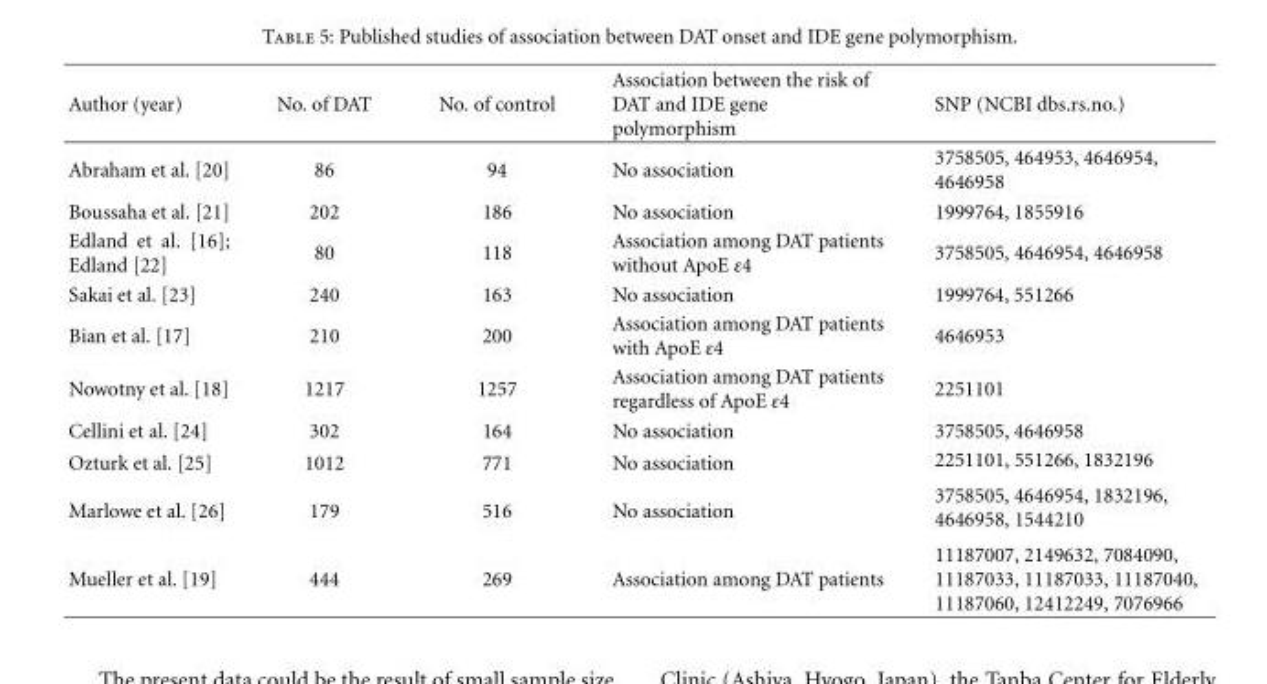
<table><thead><tr><td>Author (year)</td><td>No. of DAT</td><td>No. of control</td><td>Association between the risk of DAT and IDE gene polymorphism</td><td>SNP (NCBI dbs.rs.no.)</td></tr></thead><tbody><tr><td>Abraham et al. [20]</td><td>86</td><td>94</td><td>No association</td><td>3758505, 464953, 4646954, 4646958</td></tr><tr><td>Boussaha et al. [21]</td><td>202</td><td>186</td><td>No association</td><td>1999764, 1855916</td></tr><tr><td>Edland et al. [16]; Edland [22]</td><td>80</td><td>118</td><td>Association among DAT patients without ApoE ε4</td><td>3758505, 4646954, 4646958</td></tr><tr><td>Sakai et al. [23]</td><td>240</td><td>163</td><td>No association</td><td>1999764, 551266</td></tr><tr><td>Bian et al. [17]</td><td>210</td><td>200</td><td>Association among DAT patients with ApoE ε4</td><td>4646953</td></tr><tr><td>Nowotny et al. [18]</td><td>1217</td><td>1257</td><td>Association among DAT patients regardless of ApoE ε4</td><td>2251101</td></tr><tr><td>Cellini et al. [24]</td><td>302</td><td>164</td><td>No association</td><td>3758505, 4646958</td></tr><tr><td>Ozturk et al. [25]</td><td>1012</td><td>771</td><td>No association</td><td>2251101, 551266, 1832196</td></tr><tr><td>Marlowe et al. [26]</td><td>179</td><td>516</td><td>No association</td><td>3758505, 4646954, 1832196, 4646958, 1544210</td></tr><tr><td>Mueller et al. [19]</td><td>444</td><td>269</td><td>Association among DAT patients</td><td>11187007, 2149632, 7084090, 11187033, 11187033, 11187040, 11187060, 12412249, 7076966</td></tr></tbody></table>